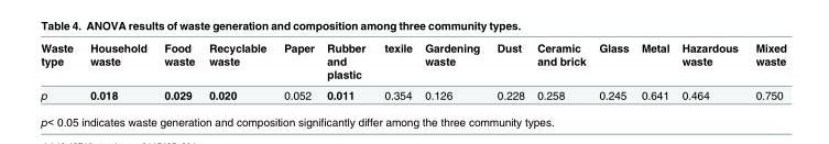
<table><thead><tr><td>Waste type</td><td>Household waste</td><td>Food waste</td><td>Recyclable waste</td><td>Paper</td><td>Rubber and plastic</td><td>texile</td><td>Gardening waste</td><td>Dust</td><td>Ceramic and brick</td><td>Glass</td><td>Metal</td><td>Hazardous waste</td><td>Mixed waste</td></tr></thead><tbody><tr><td>p</td><td>0.018</td><td>0.029</td><td>0.020</td><td>0.052</td><td>0.011</td><td>0.354</td><td>0.126</td><td>0.228</td><td>0.258</td><td>0.245</td><td>0.641</td><td>0.464</td><td>0.750</td></tr></tbody></table>